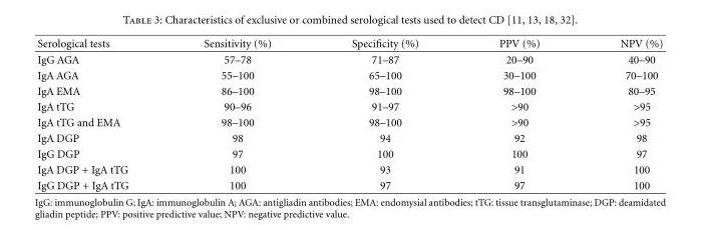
<table><thead><tr><td>Serological tests</td><td>Sensitivity (%)</td><td>Specificity (%)</td><td>PPV (%)</td><td>NPV (%)</td></tr></thead><tbody><tr><td>IgG AGA</td><td>57–78</td><td>71–87</td><td>20–90</td><td>40–90</td></tr><tr><td>IgA AGA</td><td>55–100</td><td>65–100</td><td>30–100</td><td>70–100</td></tr><tr><td>IgA EMA</td><td>86–100</td><td>98–100</td><td>98–100</td><td>80–95</td></tr><tr><td>IgA tTG</td><td>90–96</td><td>91–97</td><td>&gt;90</td><td>&gt;95</td></tr><tr><td>IgA tTG and EMA</td><td>98–100</td><td>98–100</td><td>&gt;90</td><td>&gt;95</td></tr><tr><td>IgA DGP</td><td>98</td><td>94</td><td>92</td><td>98</td></tr><tr><td>IgG DGP</td><td>97</td><td>100</td><td>100</td><td>97</td></tr><tr><td>IgA DGP + IgA tTG</td><td>100</td><td>93</td><td>91</td><td>100</td></tr><tr><td>IgG DGP + IgA tTG</td><td>100</td><td>97</td><td>97</td><td>100</td></tr></tbody></table>